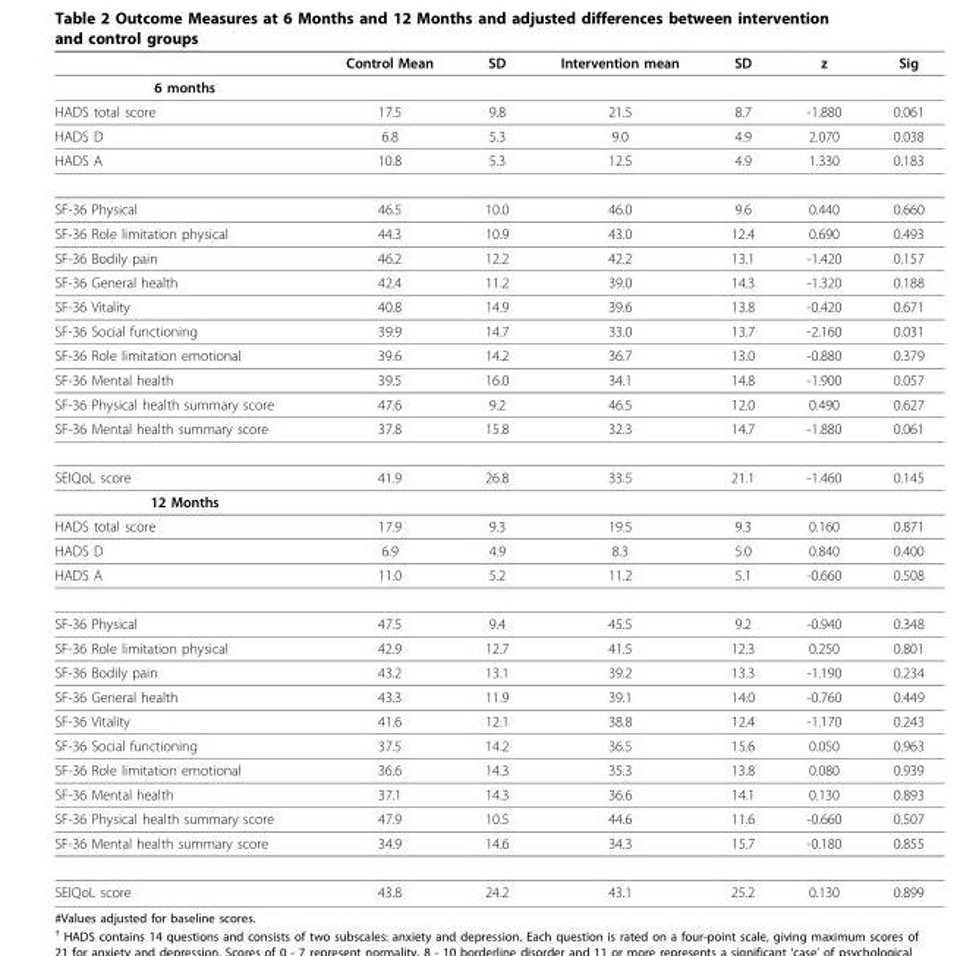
<table><thead><tr><td></td><td>Control Mean</td><td>SD</td><td>Intervention mean</td><td>SD</td><td>z</td><td>Sig</td></tr></thead><tbody><tr><td colspan="7">6 months</td></tr><tr><td>HADS total score</td><td>17.5</td><td>9.8</td><td>21.5</td><td>8.7</td><td>-1.880</td><td>0.061</td></tr><tr><td>HADS D</td><td>6.8</td><td>5.3</td><td>9.0</td><td>4.9</td><td>2.070</td><td>0.038</td></tr><tr><td>HADS A</td><td>10.8</td><td>5.3</td><td>12.5</td><td>4.9</td><td>1.330</td><td>0.183</td></tr><tr><td>SF-36 Physical</td><td>46.5</td><td>10.0</td><td>46.0</td><td>9.6</td><td>0.440</td><td>0.660</td></tr><tr><td>SF-36 Role limitation physical</td><td>44.3</td><td>10.9</td><td>43.0</td><td>12.4</td><td>0.690</td><td>0.493</td></tr><tr><td>SF-36 Bodily pain</td><td>46.2</td><td>12.2</td><td>42.2</td><td>13.1</td><td>-1.420</td><td>0.157</td></tr><tr><td>SF-36 General health</td><td>42.4</td><td>11.2</td><td>39.0</td><td>14.3</td><td>-1.320</td><td>0.188</td></tr><tr><td>SF-36 Vitality</td><td>40.8</td><td>14.9</td><td>39.6</td><td>13.8</td><td>-0.420</td><td>0.671</td></tr><tr><td>SF-36 Social functioning</td><td>39.9</td><td>14.7</td><td>33.0</td><td>13.7</td><td>-2.160</td><td>0.031</td></tr><tr><td>SF-36 Role limitation emotional</td><td>39.6</td><td>14.2</td><td>36.7</td><td>13.0</td><td>-0.880</td><td>0.379</td></tr><tr><td>SF-36 Mental health</td><td>39.5</td><td>16.0</td><td>34.1</td><td>14.8</td><td>-1.900</td><td>0.057</td></tr><tr><td>SF-36 Physical health summary score</td><td>47.6</td><td>9.2</td><td>46.5</td><td>12.0</td><td>0.490</td><td>0.627</td></tr><tr><td>SF-36 Mental health summary score</td><td>37.8</td><td>15.8</td><td>32.3</td><td>14.7</td><td>-1.880</td><td>0.061</td></tr><tr><td>SEIQoL score</td><td>41.9</td><td>26.8</td><td>33.5</td><td>21.1</td><td>-1.460</td><td>0.145</td></tr><tr><td colspan="7">12 Months</td></tr><tr><td>HADS total score</td><td>17.9</td><td>9.3</td><td>19.5</td><td>9.3</td><td>0.160</td><td>0.871</td></tr><tr><td>HADS D</td><td>6.9</td><td>4.9</td><td>8.3</td><td>5.0</td><td>0.840</td><td>0.400</td></tr><tr><td>HADS A</td><td>11.0</td><td>5.2</td><td>11.2</td><td>5.1</td><td>-0.660</td><td>0.508</td></tr><tr><td>SF-36 Physical</td><td>47.5</td><td>9.4</td><td>45.5</td><td>9.2</td><td>-0.940</td><td>0.348</td></tr><tr><td>SF-36 Role limitation physical</td><td>42.9</td><td>12.7</td><td>41.5</td><td>12.3</td><td>0.250</td><td>0.801</td></tr><tr><td>SF-36 Bodily pain</td><td>43.2</td><td>13.1</td><td>39.2</td><td>13.3</td><td>-1.190</td><td>0.234</td></tr><tr><td>SF-36 General health</td><td>43.3</td><td>11.9</td><td>39.1</td><td>14.0</td><td>-0.760</td><td>0.449</td></tr><tr><td>SF-36 Vitality</td><td>41.6</td><td>12.1</td><td>38.8</td><td>12.4</td><td>-1.170</td><td>0.243</td></tr><tr><td>SF-36 Social functioning</td><td>37.5</td><td>14.2</td><td>36.5</td><td>15.6</td><td>0.050</td><td>0.963</td></tr><tr><td>SF-36 Role limitation emotional</td><td>36.6</td><td>14.3</td><td>35.3</td><td>13.8</td><td>0.080</td><td>0.939</td></tr><tr><td>SF-36 Mental health</td><td>37.1</td><td>14.3</td><td>36.6</td><td>14.1</td><td>0.130</td><td>0.893</td></tr><tr><td>SF-36 Physical health summary score</td><td>47.9</td><td>10.5</td><td>44.6</td><td>11.6</td><td>-0.660</td><td>0.507</td></tr><tr><td>SF-36 Mental health summary score</td><td>34.9</td><td>14.6</td><td>34.3</td><td>15.7</td><td>-0.180</td><td>0.855</td></tr><tr><td>SEIQoL score</td><td>43.8</td><td>24.2</td><td>43.1</td><td>25.2</td><td>0.130</td><td>0.899</td></tr></tbody></table>